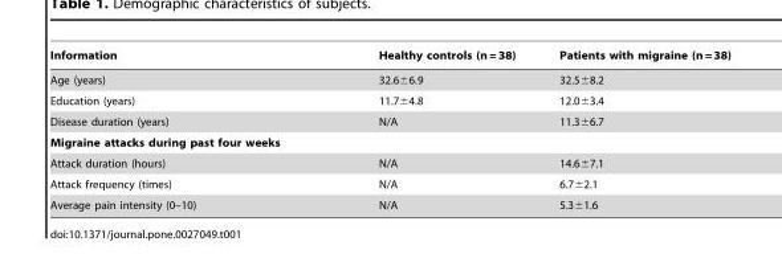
<table><thead><tr><td>Information</td><td>Healthy controls (n = 38)</td><td>Patients with migraine (n = 38)</td></tr></thead><tbody><tr><td>Age (years)</td><td>32.6±6.9</td><td>32.5±8.2</td></tr><tr><td>Education (years)</td><td>11.7±4.8</td><td>12.0±3.4</td></tr><tr><td>Disease duration (years)</td><td>N/A</td><td>11.3±6.7</td></tr><tr><td colspan="3">Migraine attacks during past four weeks</td></tr><tr><td>Attack duration (hours)</td><td>N/A</td><td>14.6±7.1</td></tr><tr><td>Attack frequency (times)</td><td>N/A</td><td>6.7±2.1</td></tr><tr><td>Average pain intensity (0–10)</td><td>N/A</td><td>5.3±1.6</td></tr></tbody></table>